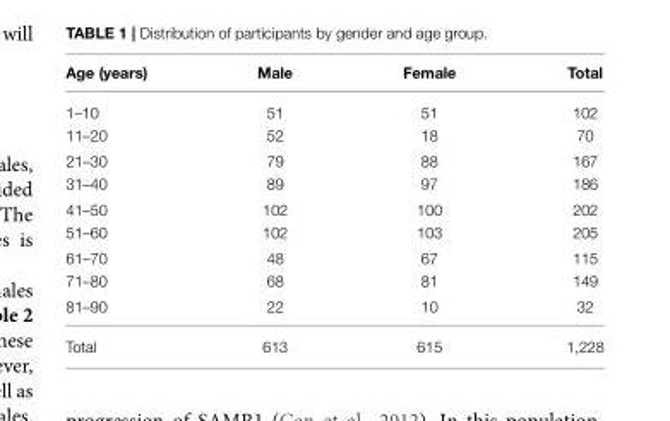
<table><thead><tr><td>Age (years)</td><td>Male</td><td>Female</td><td>Total</td></tr></thead><tbody><tr><td>1–10</td><td>51</td><td>51</td><td>102</td></tr><tr><td>11–20</td><td>52</td><td>18</td><td>70</td></tr><tr><td>21–30</td><td>79</td><td>88</td><td>167</td></tr><tr><td>31–40</td><td>89</td><td>97</td><td>186</td></tr><tr><td>41–50</td><td>102</td><td>100</td><td>202</td></tr><tr><td>51–60</td><td>102</td><td>103</td><td>205</td></tr><tr><td>61–70</td><td>48</td><td>67</td><td>115</td></tr><tr><td>71–80</td><td>68</td><td>81</td><td>149</td></tr><tr><td>81–90</td><td>22</td><td>10</td><td>32</td></tr><tr><td>Total</td><td>613</td><td>615</td><td>1,228</td></tr></tbody></table>